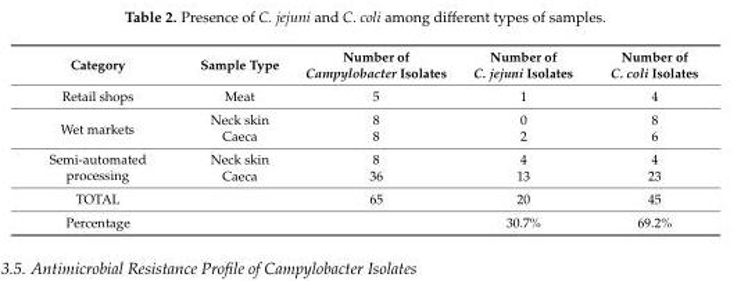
<table><thead><tr><td>Category</td><td>Sample Type</td><td>Number of Campylobacter Isolates</td><td>Number of C. jejuni Isolates</td><td>Number of C. coli Isolates</td></tr></thead><tbody><tr><td>Retail shops</td><td>Meat</td><td>5</td><td>1</td><td>4</td></tr><tr><td rowspan="2">Wet markets</td><td>Neck skin</td><td>8</td><td>0</td><td>8</td></tr><tr><td>Caeca</td><td>8</td><td>2</td><td>6</td></tr><tr><td rowspan="2">Semi-automated processing</td><td>Neck skin</td><td>8</td><td>4</td><td>4</td></tr><tr><td>Caeca</td><td>36</td><td>13</td><td>23</td></tr><tr><td>TOTAL</td><td></td><td>65</td><td>20</td><td>45</td></tr><tr><td>Percentage</td><td></td><td></td><td>30.7%</td><td>69.2%</td></tr></tbody></table>